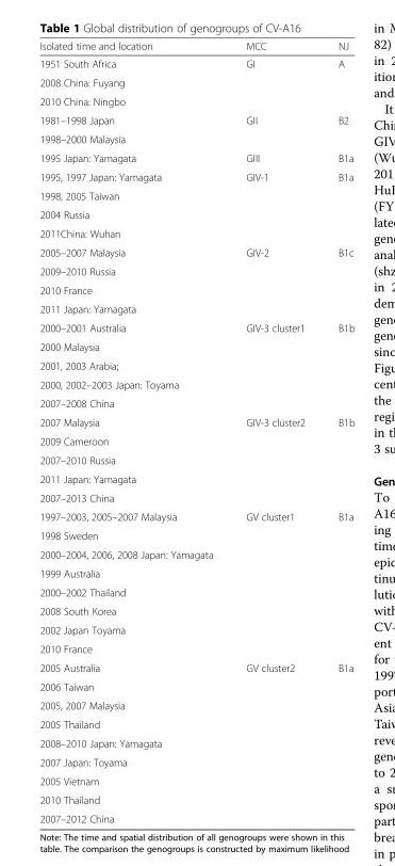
<table><thead><tr><td>Isolated time and location</td><td>MCC</td><td>NJ</td></tr></thead><tbody><tr><td>1951 South Africa</td><td rowspan="3">GI</td><td rowspan="3">A</td></tr><tr><td>2008 China: Fuyang</td></tr><tr><td>2010 China: Ningbo</td></tr><tr><td>1981–1998 Japan</td><td rowspan="2">GII</td><td rowspan="2">B2</td></tr><tr><td>1998–2000 Malaysia</td></tr><tr><td>1995 Japan: Yamagata</td><td>GIII</td><td>B1a</td></tr><tr><td>1995, 1997 Japan: Yamagata</td><td rowspan="4">GIV-1</td><td rowspan="4">B1a</td></tr><tr><td>1998, 2005 Taiwan</td></tr><tr><td>2004 Russia</td></tr><tr><td>2011China: Wuhan</td></tr><tr><td>2005–2007 Malaysia</td><td rowspan="4">GIV-2</td><td rowspan="4">B1c</td></tr><tr><td>2009–2010 Russia</td></tr><tr><td>2010 France</td></tr><tr><td>2011 Japan: Yamagata</td></tr><tr><td>2000–2001 Australia</td><td>GIV-3 cluster1</td><td>B1b</td></tr><tr><td colspan="3">2000 Malaysia</td></tr><tr><td colspan="3">2001, 2003 Arabia;</td></tr><tr><td colspan="3">2000, 2002–2003 Japan: Toyama</td></tr><tr><td colspan="3">2007–2008 China</td></tr><tr><td>2007 Malaysia</td><td rowspan="5">GIV-3 cluster2</td><td rowspan="5">B1b</td></tr><tr><td>2009 Cameroon</td></tr><tr><td>2007–2010 Russia</td></tr><tr><td>2011 Japan: Yamagata</td></tr><tr><td>2007–2013 China</td></tr><tr><td>1997–2003, 2005–2007 Malaysia</td><td rowspan="8">GV cluster1</td><td rowspan="8">B1a</td></tr><tr><td>1998 Sweden</td></tr><tr><td>2000–2004, 2006, 2008 Japan: Yamagata</td></tr><tr><td>1999 Australia</td></tr><tr><td>2000–2002 Thailand</td></tr><tr><td>2008 South Korea</td></tr><tr><td>2002 Japan Toyama</td></tr><tr><td>2010 France</td></tr><tr><td>2005 Australia</td><td rowspan="9">GV cluster2</td><td rowspan="9">B1a</td></tr><tr><td>2006 Taiwan</td></tr><tr><td>2005, 2007 Malaysia</td></tr><tr><td>2005 Thailand</td></tr><tr><td>2008–2010 Japan: Yamagata</td></tr><tr><td>2007 Japan: Toyama</td></tr><tr><td>2005 Vietnam</td></tr><tr><td>2010 Thailand</td></tr><tr><td>2007–2012 China</td></tr></tbody></table>